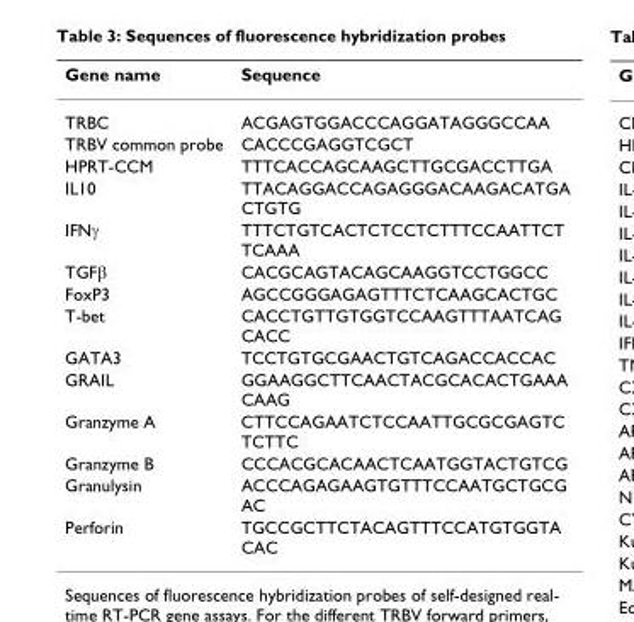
<table><thead><tr><td>Gene name</td><td>Sequence</td></tr></thead><tbody><tr><td>TRBC</td><td>ACGAGTGGACCCAGGATAGGGCCAA</td></tr><tr><td>TRBV common probe</td><td>CACCCGAGGTCGCT</td></tr><tr><td>HPRT-CCM</td><td>TTTCACCAGCAAGCTTGCGACCTTGA</td></tr><tr><td>IL10</td><td>TTACAGGACCAGAGGGACAAGACATGA CTGTG</td></tr><tr><td>IFNγ</td><td>TTTCTGTCACTCTCCTCTTTCCAATTCT TCAAA</td></tr><tr><td>TGFβ</td><td>CACGCAGTACAGCAAGGTCCTGGCC</td></tr><tr><td>FoxP3</td><td>AGCCGGGAGAGTTTCTCAAGCACTGC</td></tr><tr><td>T-bet</td><td>CACCTGTTGTGGTCCAAGTTTAATCAG CACC</td></tr><tr><td>GATA3</td><td>TCCTGTGCGAACTGTCAGACCACCAC</td></tr><tr><td>GRAIL</td><td>GGAAGGCTTCAACTACGCACACTGAAA CAAG</td></tr><tr><td>Granzyme A</td><td>CTTCCAGAATCTCCAATTGCGCGAGTC TCTTC</td></tr><tr><td>Granzyme B</td><td>CCCACGCACAACTCAATGGTACTGTCG</td></tr><tr><td>Granulysin</td><td>ACCCAGAGAAGTGTTTCCAATGCTGCG AC</td></tr><tr><td>Perforin</td><td>TGCCGCTTCTACAGTTTCCATGTGGTA CAC</td></tr></tbody></table>